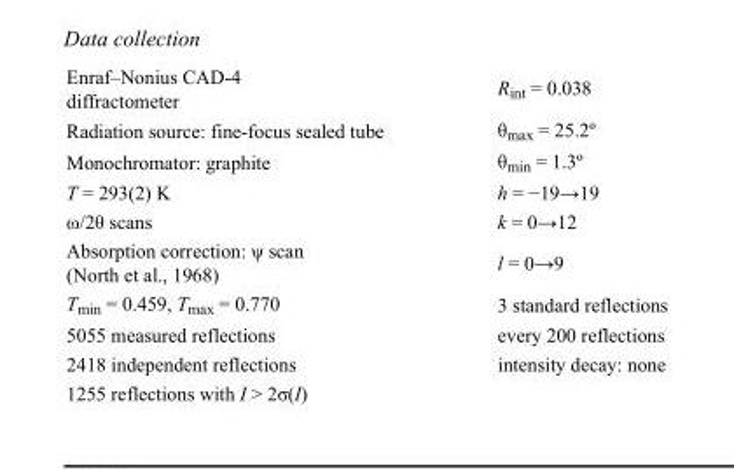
<table><tbody><tr><td>Enraf–Nonius CAD-4 diffractometer</td><td>R<sub>int</sub> = 0.038</td></tr><tr><td>Radiation source: fine-focus sealed tube</td><td>θ<sub>max</sub> = 25.2º</td></tr><tr><td>Monochromator: graphite</td><td>θ<sub>min</sub> = 1.3º</td></tr><tr><td>T = 293(2) K</td><td>h = −19→19</td></tr><tr><td>ω/2θ scans</td><td>k = 0→12</td></tr><tr><td>Absorption correction: ψ scan (North et al., 1968)</td><td>l = 0→9</td></tr><tr><td>T<sub>min</sub> = 0.459, T<sub>max</sub> = 0.770</td><td>3 standard reflections</td></tr><tr><td>5055 measured reflections</td><td>every 200 reflections</td></tr><tr><td>2418 independent reflections</td><td>intensity decay: none</td></tr><tr><td>1255 reflections with I &gt; 2σ(I)</td><td></td></tr></tbody></table>